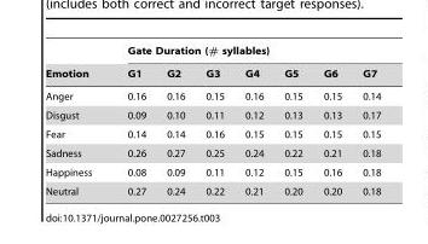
<table><thead><tr><td rowspan="2">Emotion</td><td colspan="7">Gate Duration (# syllables)</td></tr><tr><td>G1</td><td>G2</td><td>G3</td><td>G4</td><td>G5</td><td>G6</td><td>G7</td></tr></thead><tbody><tr><td>Anger</td><td>0.16</td><td>0.16</td><td>0.15</td><td>0.16</td><td>0.15</td><td>0.15</td><td>0.14</td></tr><tr><td>Disgust</td><td>0.09</td><td>0.10</td><td>0.11</td><td>0.12</td><td>0.13</td><td>0.13</td><td>0.17</td></tr><tr><td>Fear</td><td>0.14</td><td>0.14</td><td>0.16</td><td>0.15</td><td>0.15</td><td>0.15</td><td>0.15</td></tr><tr><td>Sadness</td><td>0.26</td><td>0.27</td><td>0.25</td><td>0.24</td><td>0.22</td><td>0.21</td><td>0.18</td></tr><tr><td>Happiness</td><td>0.08</td><td>0.09</td><td>0.11</td><td>0.12</td><td>0.15</td><td>0.16</td><td>0.18</td></tr><tr><td>Neutral</td><td>0.27</td><td>0.24</td><td>0.22</td><td>0.21</td><td>0.20</td><td>0.20</td><td>0.18</td></tr></tbody></table>